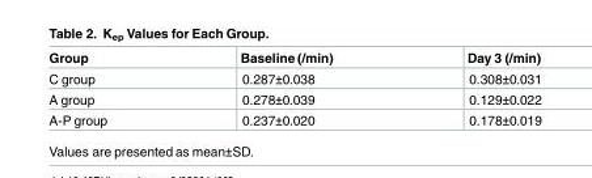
<table><thead><tr><td>Group</td><td>Baseline (/min)</td><td>Day 3 (/min)</td></tr></thead><tbody><tr><td>C group</td><td>0.287±0.038</td><td>0.308±0.031</td></tr><tr><td>A group</td><td>0.278±0.039</td><td>0.129±0.022</td></tr><tr><td>A-P group</td><td>0.237±0.020</td><td>0.178±0.019</td></tr></tbody></table>